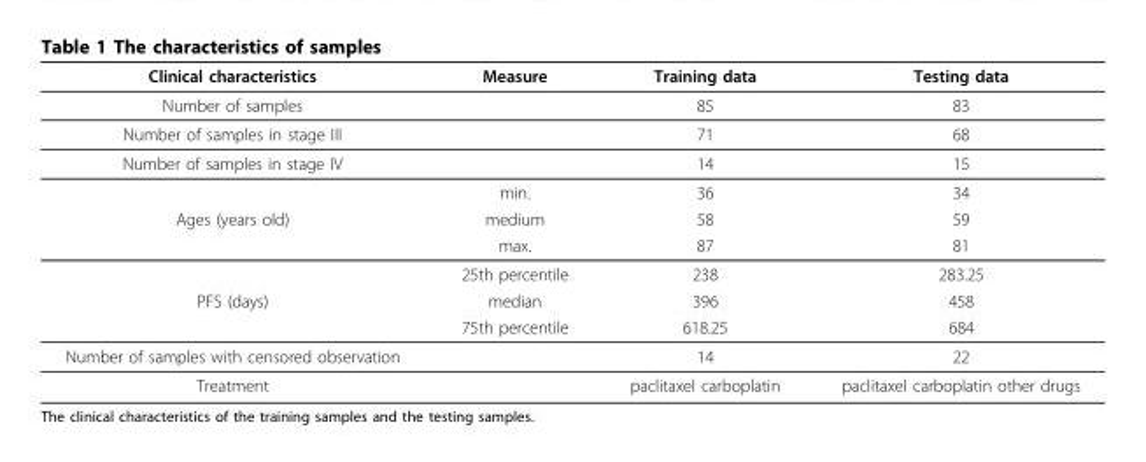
<table><thead><tr><td>Clinical characteristics</td><td>Measure</td><td>Training data</td><td>Testing data</td></tr></thead><tbody><tr><td>Number of samples</td><td></td><td>85</td><td>83</td></tr><tr><td>Number of samples in stage III</td><td></td><td>71</td><td>68</td></tr><tr><td rowspan="2">Number of samples in stage IV</td><td></td><td>14</td><td>15</td></tr><tr><td>min.</td><td>36</td><td>34</td></tr><tr><td rowspan="3">Ages (years old)</td><td>medium</td><td>58</td><td>59</td></tr><tr><td>max.</td><td>87</td><td>81</td></tr><tr><td>25th percentile</td><td>238</td><td>283.25</td></tr><tr><td rowspan="2">PFS (days)</td><td>median</td><td>396</td><td>458</td></tr><tr><td>75th percentile</td><td>618.25</td><td>684</td></tr><tr><td>Number of samples with censored observation</td><td></td><td>14</td><td>22</td></tr><tr><td>Treatment</td><td></td><td>paclitaxel carboplatin</td><td>paclitaxel carboplatin other drugs</td></tr></tbody></table>